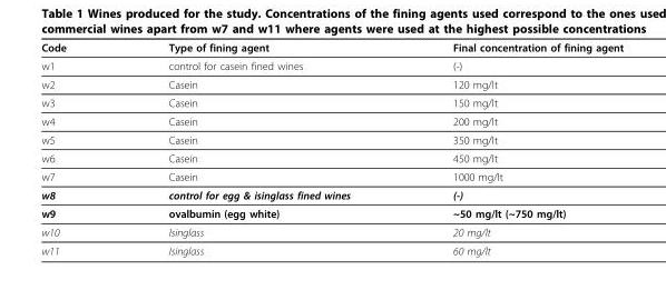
<table><thead><tr><td>Code</td><td>Type of fining agent</td><td>Final concentration of fining agent</td></tr></thead><tbody><tr><td>w1</td><td>control for casein fined wines</td><td>(-)</td></tr><tr><td>w2</td><td>Casein</td><td>120 mg/lt</td></tr><tr><td>w3</td><td>Casein</td><td>150 mg/lt</td></tr><tr><td>w4</td><td>Casein</td><td>200 mg/lt</td></tr><tr><td>w5</td><td>Casein</td><td>350 mg/lt</td></tr><tr><td>w6</td><td>Casein</td><td>450 mg/lt</td></tr><tr><td>w7</td><td>Casein</td><td>1000 mg/lt</td></tr><tr><td>w8</td><td>control for egg &amp; isinglass fined wines</td><td>(-)</td></tr><tr><td>w9</td><td>ovalbumin (egg white)</td><td>~50 mg/lt (~750 mg/lt)</td></tr><tr><td>w10</td><td>Isinglass</td><td>20 mg/lt</td></tr><tr><td>w11</td><td>Isinglass</td><td>60 mg/lt</td></tr></tbody></table>